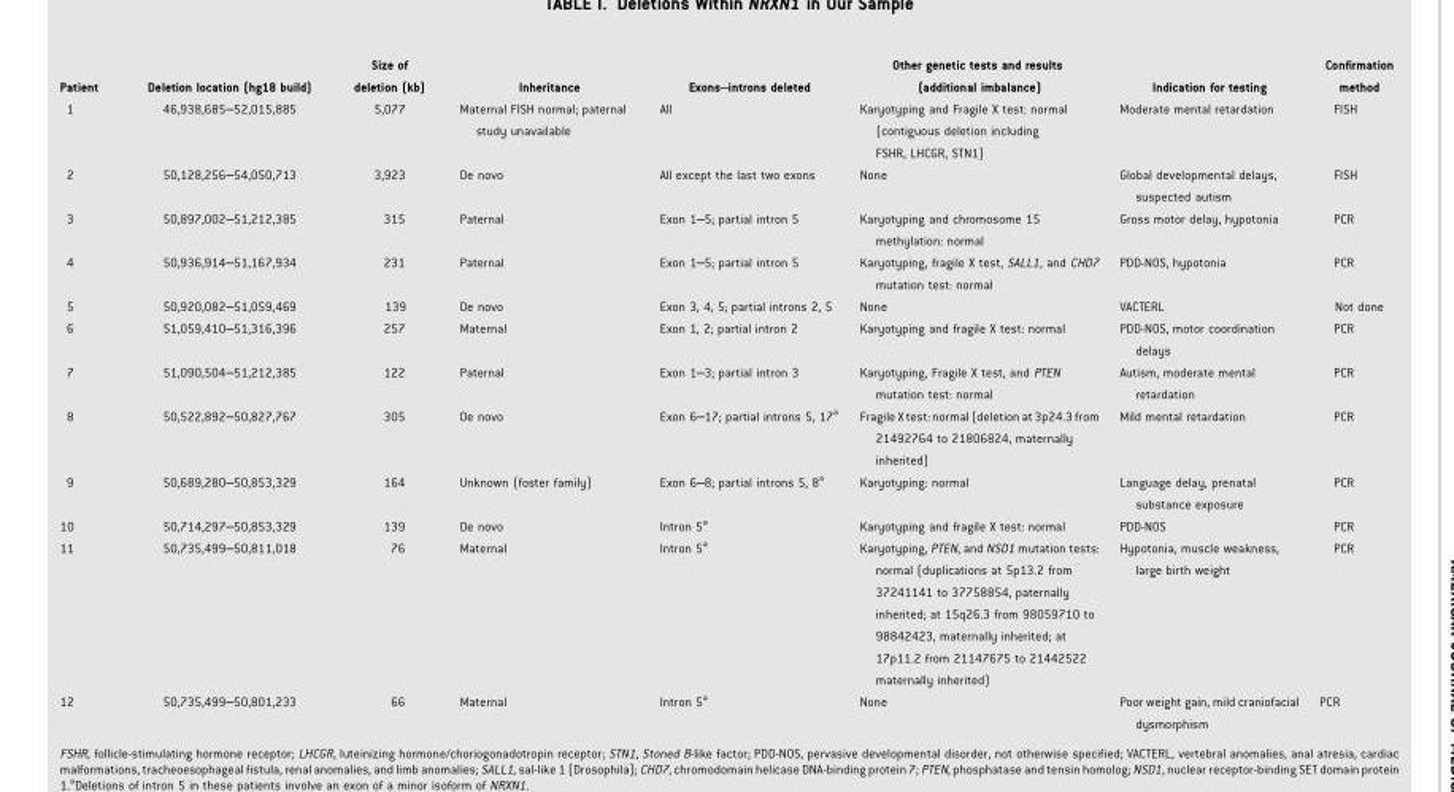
<table><thead><tr><td>Patient</td><td>Deletion location (hg18 build)</td><td>Size of deletion (kb)</td><td>Inheritance</td><td>Exons–introns deleted</td><td>Other genetic tests and results (additional imbalance)</td><td>Indication for testing</td><td>Confirmation method</td></tr></thead><tbody><tr><td>1</td><td>46,938,685–52,015,885</td><td>5,077</td><td>Maternal FISH normal; paternal study unavailable</td><td>All</td><td>Karyotyping and Fragile X test: normal (contiguous deletion including FSHR, LHCGR, STN1)</td><td>Moderate mental retardation</td><td>FISH</td></tr><tr><td>2</td><td>50,128,256–54,050,713</td><td>3,923</td><td>De novo</td><td>All except the last two exons</td><td>None</td><td>Global developmental delays, suspected autism</td><td>FISH</td></tr><tr><td>3</td><td>50,897,002–51,212,385</td><td>315</td><td>Paternal</td><td>Exon 1–5; partial intron 5</td><td>Karyotyping and chromosome 15 methylation: normal</td><td>Gross motor delay, hypotonia</td><td>PCR</td></tr><tr><td>4</td><td>50,936,914–51,167,934</td><td>231</td><td>Paternal</td><td>Exon 1–5; partial intron 5</td><td>Karyotyping, fragile X test, SALL1, and CHD7 mutation test: normal</td><td>PDD-NOS, hypotonia</td><td>PCR</td></tr><tr><td>5</td><td>50,920,082–51,059,469</td><td>139</td><td>De novo</td><td>Exon 3, 4, 5; partial introns 2, 5</td><td>None</td><td>VACTERL</td><td>Not done</td></tr><tr><td>6</td><td>51,059,410–51,316,396</td><td>257</td><td>Maternal</td><td>Exon 1, 2; partial intron 2</td><td>Karyotyping and fragile X test: normal</td><td>PDD-NOS, motor coordination delays</td><td>PCR</td></tr><tr><td>7</td><td>51,090,504–51,212,385</td><td>122</td><td>Paternal</td><td>Exon 1–3; partial intron 3</td><td>Karyotyping, Fragile X test, and PTEN mutation test: normal</td><td>Autism, moderate mental retardation</td><td>PCR</td></tr><tr><td>8</td><td>50,522,892–50,827,767</td><td>305</td><td>De novo</td><td>Exon 6–17; partial introns 5, 17<sup>a</sup></td><td>Fragile X test: normal (deletion at3p24.3 from 21492764 to 21806824, maternally inherited)</td><td>Mild mental retardation</td><td>PCR</td></tr><tr><td>9</td><td>50,689,280–50,853,329</td><td>164</td><td>Unknown (foster family)</td><td>Exon 6–8; partial introns 5, 8<sup>a</sup></td><td>Karyotyping: normal</td><td>Language delay, prenatal substance exposure</td><td>PCR</td></tr><tr><td>10</td><td>50,714,297–50,853,329</td><td>139</td><td>De novo</td><td>Intron 5<sup>a</sup></td><td>Karyotyping and fragile X test: normal</td><td>PDD-NOS</td><td>PCR</td></tr><tr><td>11</td><td>50,735,499–50,811,018</td><td>76</td><td>Maternal</td><td>Intron 5<sup>a</sup></td><td>Karyotyping, PTEN, and NSD1 mutation tests: normal (duplications at 5p13.2 from 37241141 to 37758854, paternally inherited; at 15q26.3 from 98059710 to 98842423, maternally inherited; at 17p11.2 from 21147675 to 21442522 maternally inherited)</td><td>Hypotonia, muscle weakness, large birth weight</td><td>PCR</td></tr><tr><td>12</td><td>50,735,499–50,801,233</td><td>66</td><td>Maternal</td><td>Intron 5<sup>a</sup></td><td>None</td><td>Poor weight gain, mild craniofacial dysmorphism</td><td>PCR</td></tr></tbody></table>